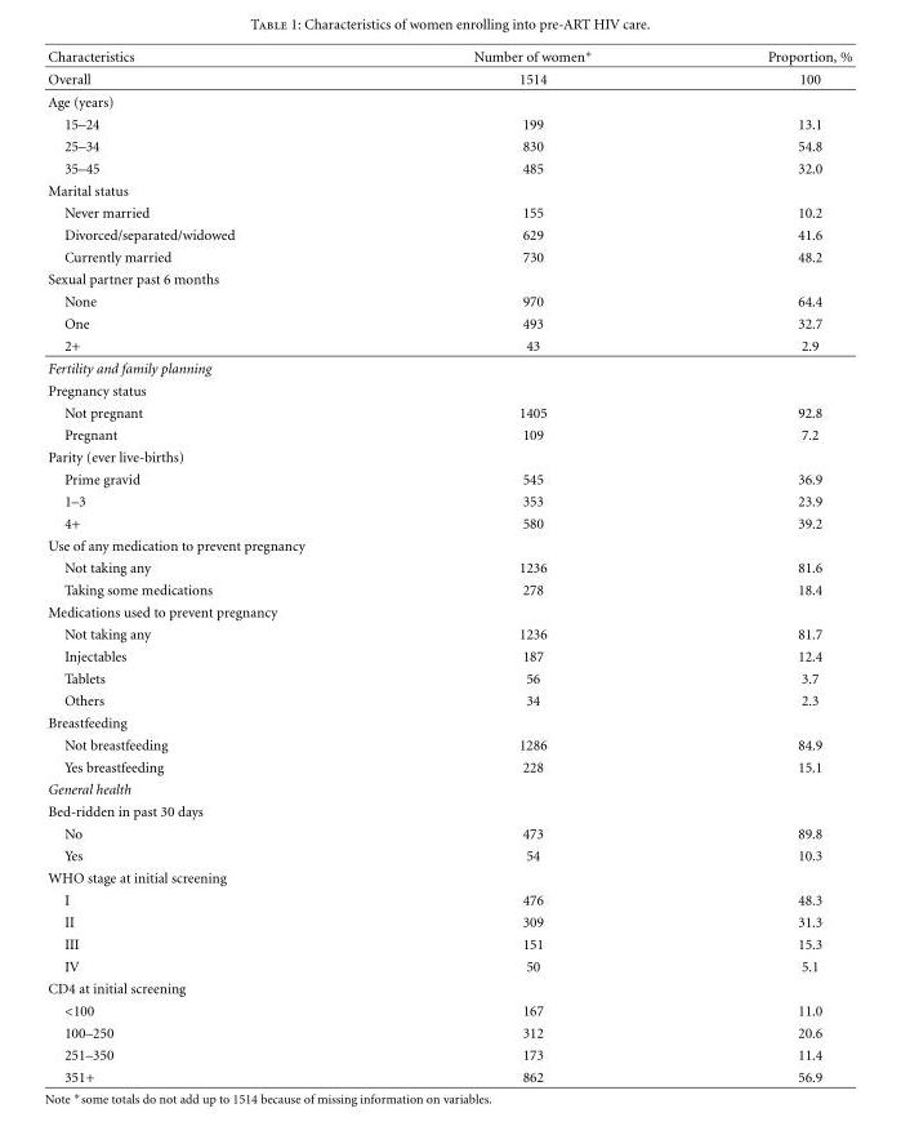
<table><thead><tr><td rowspan="2">Characteristics Overall</td><td rowspan="2">Number of women∗ 1514</td><td rowspan="2">Proportion, % 100</td></tr><tr></tr></thead><tbody><tr><td colspan="3">Age (years)</td></tr><tr><td>15–24</td><td>199</td><td>13.1</td></tr><tr><td>25–34</td><td>830</td><td>54.8</td></tr><tr><td>35–45</td><td>485</td><td>32.0</td></tr><tr><td colspan="3">Marital status</td></tr><tr><td>Never married</td><td>155</td><td>10.2</td></tr><tr><td>Divorced/separated/widowed</td><td>629</td><td>41.6</td></tr><tr><td>Currently married</td><td>730</td><td>48.2</td></tr><tr><td colspan="3">Sexual partner past 6 months</td></tr><tr><td>None</td><td>970</td><td>64.4</td></tr><tr><td>One</td><td>493</td><td>32.7</td></tr><tr><td>2+</td><td>43</td><td>2.9</td></tr><tr><td colspan="3">Fertility and family planning</td></tr><tr><td colspan="3">Pregnancy status</td></tr><tr><td>Not pregnant</td><td>1405</td><td>92.8</td></tr><tr><td>Pregnant</td><td>109</td><td>7.2</td></tr><tr><td colspan="3">Parity (ever live-births)</td></tr><tr><td>Prime gravid</td><td>545</td><td>36.9</td></tr><tr><td>1–3</td><td>353</td><td>23.9</td></tr><tr><td>4+</td><td>580</td><td>39.2</td></tr><tr><td colspan="3">Use of any medication to prevent pregnancy</td></tr><tr><td>Not taking any</td><td>1236</td><td>81.6</td></tr><tr><td>Taking some medications</td><td>278</td><td>18.4</td></tr><tr><td colspan="3">Medications used to prevent pregnancy</td></tr><tr><td>Not taking any</td><td>1236</td><td>81.7</td></tr><tr><td>Injectables</td><td>187</td><td>12.4</td></tr><tr><td>Tablets</td><td>56</td><td>3.7</td></tr><tr><td>Others</td><td>34</td><td>2.3</td></tr><tr><td colspan="3">Breastfeeding</td></tr><tr><td>Not breastfeeding</td><td>1286</td><td>84.9</td></tr><tr><td>Yes breastfeeding</td><td>228</td><td>15.1</td></tr><tr><td colspan="3">General health</td></tr><tr><td colspan="3">Bed-ridden in past 30 days</td></tr><tr><td>No</td><td>473</td><td>89.8</td></tr><tr><td>Yes</td><td>54</td><td>10.3</td></tr><tr><td colspan="3">WHO stage at initial screening</td></tr><tr><td>I</td><td>476</td><td>48.3</td></tr><tr><td>II</td><td>309</td><td>31.3</td></tr><tr><td>III</td><td>151</td><td>15.3</td></tr><tr><td>IV</td><td>50</td><td>5.1</td></tr><tr><td colspan="3">CD4 at initial screening</td></tr><tr><td>&lt;100</td><td>167</td><td>11.0</td></tr><tr><td>100–250</td><td>312</td><td>20.6</td></tr><tr><td>251–350</td><td>173</td><td>11.4</td></tr><tr><td>351+</td><td>862</td><td>56.9</td></tr></tbody></table>